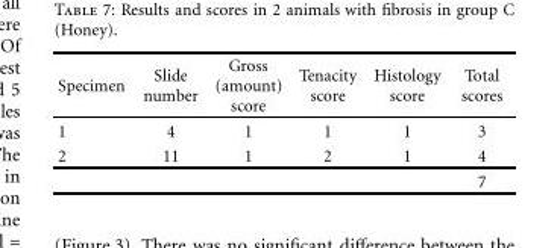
<table><thead><tr><td>Specimen</td><td>Slide number</td><td>Gross (amount) score</td><td>Tenacity score</td><td>Histology score</td><td>Total scores</td></tr></thead><tbody><tr><td>1</td><td>4</td><td>1</td><td>1</td><td>1</td><td>3</td></tr><tr><td rowspan="2">2</td><td>11</td><td>1</td><td>2</td><td>1</td><td>4</td></tr><tr><td></td><td></td><td></td><td></td><td>7</td></tr></tbody></table>